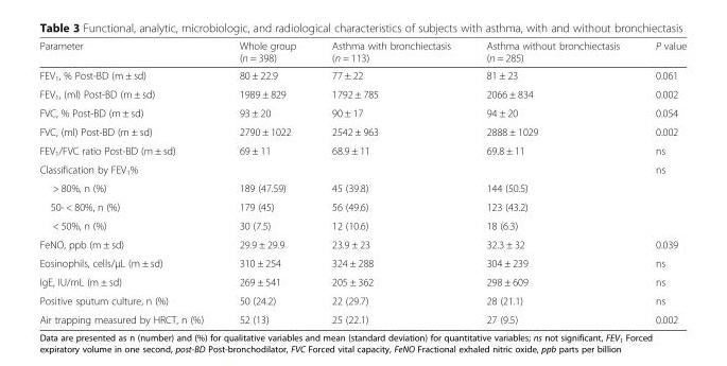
<table><thead><tr><td>Parameter</td><td>Whole group (n = 398)</td><td>Asthma with bronchiectasis (n = 113)</td><td>Asthma without bronchiectasis (n = 285)</td><td>P value</td></tr></thead><tbody><tr><td>FEV<sub>1</sub>, % Post-BD (m ± sd)</td><td>80 ± 22.9</td><td>77 ± 22</td><td>81 ± 23</td><td>0.061</td></tr><tr><td>FEV<sub>1</sub>, (ml) Post-BD (m ± sd)</td><td>1989 ± 829</td><td>1792 ± 785</td><td>2066 ± 834</td><td>0.002</td></tr><tr><td>FVC, % Post-BD (m ± sd)</td><td>93 ± 20</td><td>90 ± 17</td><td>94 ± 20</td><td>0.054</td></tr><tr><td>FVC, (ml) Post-BD (m ± sd)</td><td>2790 ± 1022</td><td>2542 ± 963</td><td>2888 ± 1029</td><td>0.002</td></tr><tr><td>FEV<sub>1</sub>/FVC ratio Post-BD (m ± sd)</td><td>69 ± 11</td><td>68.9 ± 11</td><td>69.8 ± 11</td><td>ns</td></tr><tr><td colspan="4">Classification by FEV<sub>1</sub>%</td><td>ns</td></tr><tr><td>&gt; 80%, n (%)</td><td>189 (47.59)</td><td>45 (39.8)</td><td>144 (50.5)</td><td></td></tr><tr><td>50- &lt; 80%, n (%)</td><td>179 (45)</td><td>56 (49.6)</td><td>123 (43.2)</td><td></td></tr><tr><td>&lt; 50%, n (%)</td><td>30 (7.5)</td><td>12 (10.6)</td><td>18 (6.3)</td><td></td></tr><tr><td>FeNO, ppb (m ± sd)</td><td>29.9 ± 29.9</td><td>23.9 ± 23</td><td>32.3 ± 32</td><td>0.039</td></tr><tr><td>Eosinophils, cells/μL (m ± sd)</td><td>310 ± 254</td><td>324 ± 288</td><td>304 ± 239</td><td>ns</td></tr><tr><td>IgE, IU/mL (m ± sd)</td><td>269 ± 541</td><td>205 ± 362</td><td>298 ± 609</td><td>ns</td></tr><tr><td>Positive sputum culture, n (%)</td><td>50 (24.2)</td><td>22 (29.7)</td><td>28 (21.1)</td><td>ns</td></tr><tr><td>Air trapping measured by HRCT, n (%)</td><td>52 (13)</td><td>25 (22.1)</td><td>27 (9.5)</td><td>0.002</td></tr></tbody></table>